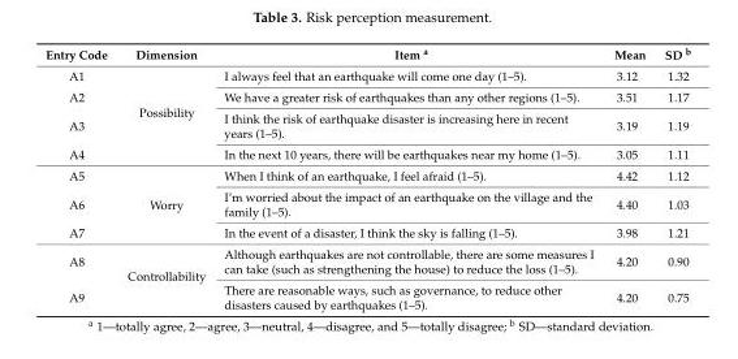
<table><thead><tr><td>Entry Code</td><td>Dimension</td><td>Item <sup>a</sup></td><td>Mean</td><td>SD <sup>b</sup></td></tr></thead><tbody><tr><td>A1</td><td rowspan="4">Possibility</td><td>I always feel that an earthquake will come one day (1–5).</td><td>3.12</td><td>1.32</td></tr><tr><td>A2</td><td>We have a greater risk of earthquakes than any other regions (1–5).</td><td>3.51</td><td>1.17</td></tr><tr><td>A3</td><td>I think the risk of earthquake disaster is increasing here in recent years (1–5).</td><td>3.19</td><td>1.19</td></tr><tr><td>A4</td><td>In the next 10 years, there will be earthquakes near my home (1–5).</td><td>3.05</td><td>1.11</td></tr><tr><td>A5</td><td rowspan="3">Worry</td><td>When I think of an earthquake, I feel afraid (1–5).</td><td>4.42</td><td>1.12</td></tr><tr><td>A6</td><td>I’m worried about the impact of an earthquake on the village and the family (1–5).</td><td>4.40</td><td>1.03</td></tr><tr><td>A7</td><td>In the event of a disaster, I think the sky is falling (1–5).</td><td>3.98</td><td>1.21</td></tr><tr><td>A8</td><td rowspan="2">Controllability</td><td>Although earthquakes are not controllable, there are some measures I can take (such as strengthening the house) to reduce the loss (1–5).</td><td>4.20</td><td>0.90</td></tr><tr><td>A9</td><td>There are reasonable ways, such as governance, to reduce other disasters caused by earthquakes (1–5).</td><td>4.20</td><td>0.75</td></tr></tbody></table>